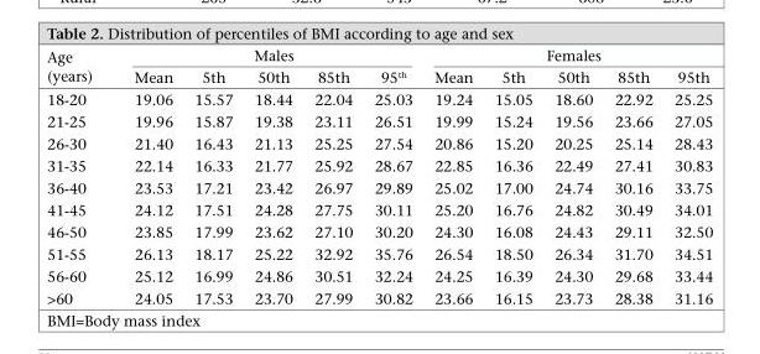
<table><thead><tr><td rowspan="2">Age (years)</td><td colspan="5">Males</td><td colspan="5">Females</td></tr><tr><td>Mean</td><td>5th</td><td>50th</td><td>85th</td><td>95<sup>th</sup></td><td>Mean</td><td>5th</td><td>50th</td><td>85th</td><td>95th</td></tr></thead><tbody><tr><td>18-20</td><td>19.06</td><td>15.57</td><td>18.44</td><td>22.04</td><td>25.03</td><td>19.24</td><td>15.05</td><td>18.60</td><td>22.92</td><td>25.25</td></tr><tr><td>21-25</td><td>19.96</td><td>15.87</td><td>19.38</td><td>23.11</td><td>26.51</td><td>19.99</td><td>15.24</td><td>19.56</td><td>23.66</td><td>27.05</td></tr><tr><td>26-30</td><td>21.40</td><td>16.43</td><td>21.13</td><td>25.25</td><td>27.54</td><td>20.86</td><td>15.20</td><td>20.25</td><td>25.14</td><td>28.43</td></tr><tr><td>31-35</td><td>22.14</td><td>16.33</td><td>21.77</td><td>25.92</td><td>28.67</td><td>22.85</td><td>16.36</td><td>22.49</td><td>27.41</td><td>30.83</td></tr><tr><td>36-40</td><td>23.53</td><td>17.21</td><td>23.42</td><td>26.97</td><td>29.89</td><td>25.02</td><td>17.00</td><td>24.74</td><td>30.16</td><td>33.75</td></tr><tr><td>41-45</td><td>24.12</td><td>17.51</td><td>24.28</td><td>27.75</td><td>30.11</td><td>25.20</td><td>16.76</td><td>24.82</td><td>30.49</td><td>34.01</td></tr><tr><td>46-50</td><td>23.85</td><td>17.99</td><td>23.62</td><td>27.10</td><td>30.20</td><td>24.30</td><td>16.08</td><td>24.43</td><td>29.11</td><td>32.50</td></tr><tr><td>51-55</td><td>26.13</td><td>18.17</td><td>25.22</td><td>32.92</td><td>35.76</td><td>26.54</td><td>18.50</td><td>26.34</td><td>31.70</td><td>34.51</td></tr><tr><td>56-60</td><td>25.12</td><td>16.99</td><td>24.86</td><td>30.51</td><td>32.24</td><td>24.25</td><td>16.39</td><td>24.30</td><td>29.68</td><td>33.44</td></tr><tr><td>&gt;60</td><td>24.05</td><td>17.53</td><td>23.70</td><td>27.99</td><td>30.82</td><td>23.66</td><td>16.15</td><td>23.73</td><td>28.38</td><td>31.16</td></tr></tbody></table>